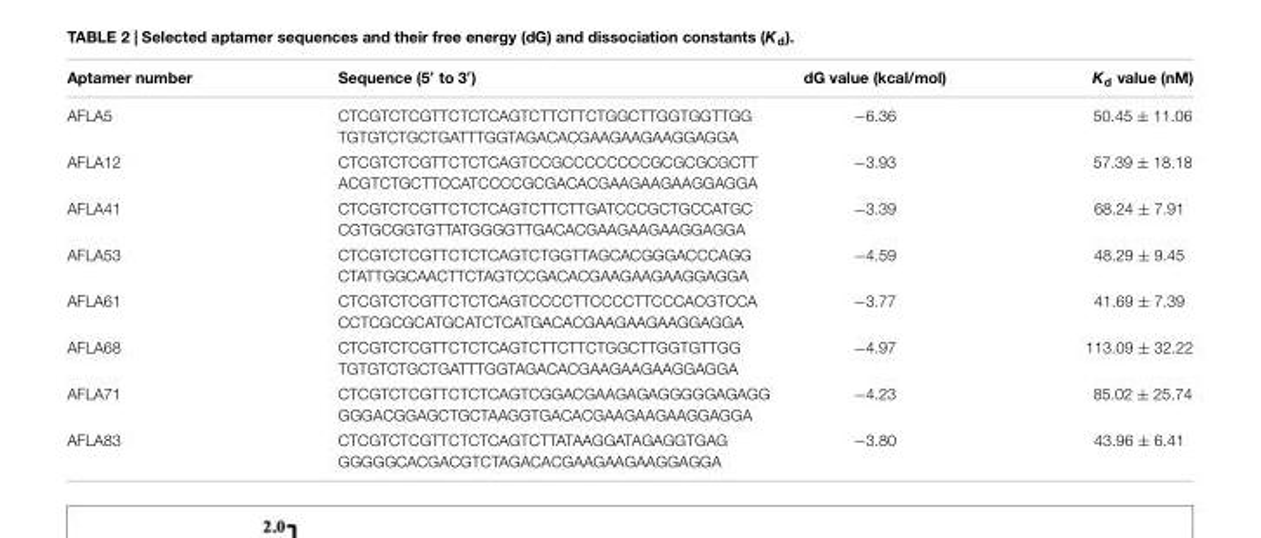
<table><thead><tr><td>Aptamer number</td><td>Sequence (5′ to 3′)</td><td>dG value (kcal/mol)</td><td>K<sub>d</sub> value (nM)</td></tr></thead><tbody><tr><td>AFLA5</td><td>CTCGTCTCGTTCTCTCAGTCTTCTTCTGGCTTGGTGGTTGG TGTGTCTGCTGATTTGGTAGACACGAAGAAGAAGGAGGA</td><td>−6.36</td><td>50.45 ± 11.06</td></tr><tr><td>AFLA12</td><td>CTCGTCTCGTTCTCTCAGTCCGCCCCCCCCGCGCGCGCTT ACGTCTGCTTCCATCCCCGCGACACGAAGAAGAAGGAGGA</td><td>−3.93</td><td>57.39 ± 18.18</td></tr><tr><td>AFLA41</td><td>CTCGTCTCGTTCTCTCAGTCTTCTTGATCCCGCTGCCATGC CGTGCGGTGTTATGGGGTTGACACGAAGAAGAAGGAGGA</td><td>−3.39</td><td>68.24 ± 7.91</td></tr><tr><td>AFLA53</td><td>CTCGTCTCGTTCTCTCAGTCTGGTTAGCACGGGACCCAGG CTATTGGCAACTTCTAGTCCGACACGAAGAAGAAGGAGGA</td><td>−4.59</td><td>48.29 ± 9.45</td></tr><tr><td>AFLA61</td><td>CTCGTCTCGTTCTCTCAGTCCCCTTCCCCTTCCCACGTCCA CCTCGCGCATGCATCTCATGACACGAAGAAGAAGGAGGA</td><td>−3.77</td><td>41.69 ± 7.39</td></tr><tr><td>AFLA68</td><td>CTCGTCTCGTTCTCTCAGTCTTCTTCTGGCTTGGTGTTGG TGTGTCTGCTGATTTGGTAGACACGAAGAAGAAGGAGGA</td><td>−4.97</td><td>113.09 ± 32.22</td></tr><tr><td>AFLA71</td><td>CTCGTCTCGTTCTCTCAGTCGGACGAAGAGAGGGGGAGAGG GGGACGGAGCTGCTAAGGTGACACGAAGAAGAAGGAGGA</td><td>−4.23</td><td>85.02 ± 25.74</td></tr><tr><td>AFLA83</td><td>CTCGTCTCGTTCTCTCAGTCTTATAAGGATAGAGGTGAG GGGGGCACGACGTCTAGACACGAAGAAGAAGGAGGA</td><td>−3.80</td><td>43.96 ± 6.41</td></tr></tbody></table>